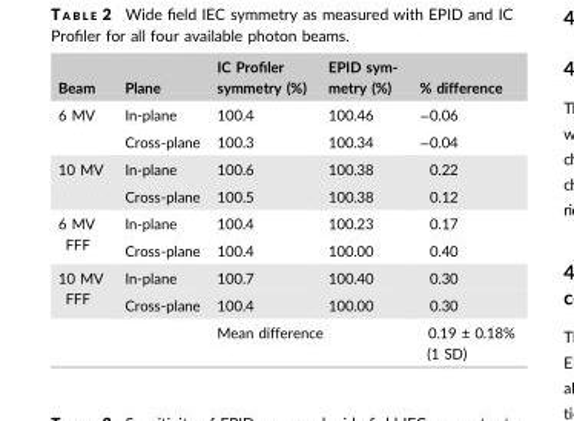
<table><thead><tr><td>Beam</td><td>Plane</td><td>IC Profiler symmetry (%)</td><td>EPID sym- metry (%)</td><td>% difference</td></tr></thead><tbody><tr><td rowspan="2">6 MV</td><td>In-plane</td><td>100.4</td><td>100.46</td><td>−0.06</td></tr><tr><td>Cross-plane</td><td>100.3</td><td>100.34</td><td>−0.04</td></tr><tr><td rowspan="2">10 MV</td><td>In-plane</td><td>100.6</td><td>100.38</td><td>0.22</td></tr><tr><td>Cross-plane</td><td>100.5</td><td>100.38</td><td>0.12</td></tr><tr><td rowspan="2">6 MV FFF</td><td>In-plane</td><td>100.4</td><td>100.23</td><td>0.17</td></tr><tr><td>Cross-plane</td><td>100.4</td><td>100.00</td><td>0.40</td></tr><tr><td rowspan="3">10 MV FFF</td><td>In-plane</td><td>100.7</td><td>100.40</td><td>0.30</td></tr><tr><td>Cross-plane</td><td>100.4</td><td>100.00</td><td>0.30</td></tr><tr><td></td><td colspan="2">Mean difference</td><td>0.19 ± 0.18% (1 SD)</td></tr></tbody></table>